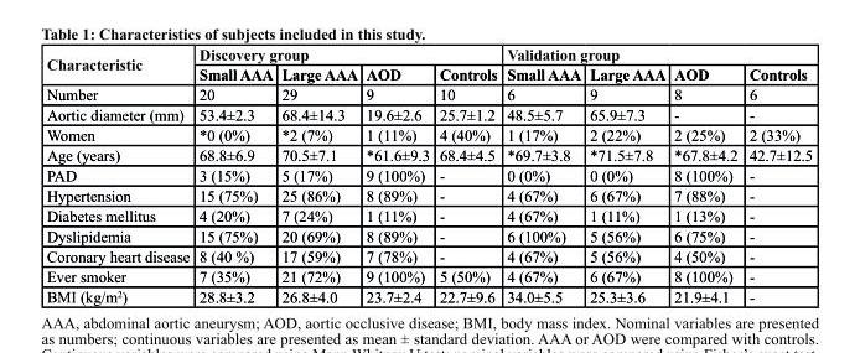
<table><thead><tr><td rowspan="2">characteristic</td><td colspan="4">discovery group</td><td colspan="4">Validation group</td></tr><tr><td>small AAA</td><td>large AAA</td><td>Aod</td><td>controls</td><td>small AAA</td><td>large AAA</td><td>Aod</td><td>controls</td></tr></thead><tbody><tr><td>Number</td><td>20</td><td>29</td><td>9</td><td>10</td><td>6</td><td>9</td><td>8</td><td>6</td></tr><tr><td>Aortic diameter (mm)</td><td>53.4±2.3</td><td>68.4±14.3</td><td>19.6±2.6</td><td>25.7±1.2</td><td>48.5±5.7</td><td>65.9±7.3</td><td>-</td><td>-</td></tr><tr><td>Women</td><td>*0 (0%)</td><td>*2 (7%)</td><td>1 (11%)</td><td>4 (40%)</td><td>1 (17%)</td><td>2 (22%)</td><td>2 (25%)</td><td>2 (33%)</td></tr><tr><td>Age (years)</td><td>68.8±6.9</td><td>70.5±7.1</td><td>*61.6±9.3</td><td>68.4±4.5</td><td>*69.7±3.8</td><td>*71.5±7.8</td><td>*67.8±4.2</td><td>42.7±12.5</td></tr><tr><td>PAD</td><td>3 (15%)</td><td>5 (17%)</td><td>9 (100%)</td><td>-</td><td>0 (0%)</td><td>0 (0%)</td><td>8 (100%)</td><td>-</td></tr><tr><td>Hypertension</td><td>15 (75%)</td><td>25 (86%)</td><td>8 (89%)</td><td>-</td><td>4 (67%)</td><td>6 (67%)</td><td>7 (88%)</td><td>-</td></tr><tr><td>Diabetes mellitus</td><td>4 (20%)</td><td>7 (24%)</td><td>1 (11%)</td><td>-</td><td>4 (67%)</td><td>1 (11%)</td><td>1 (13%)</td><td>-</td></tr><tr><td>Dyslipidemia</td><td>15 (75%)</td><td>20 (69%)</td><td>8 (89%)</td><td>-</td><td>6 (100%)</td><td>5 (56%)</td><td>6 (75%)</td><td>-</td></tr><tr><td>Coronary heart disease</td><td>8 (40 %)</td><td>17 (59%)</td><td>7 (78%)</td><td>-</td><td>4 (67%)</td><td>5 (56%)</td><td>4 (50%)</td><td>-</td></tr><tr><td>Ever smoker</td><td>7 (35%)</td><td>21 (72%)</td><td>9 (100%)</td><td>5 (50%)</td><td>4 (67%)</td><td>6 (67%)</td><td>8 (100%)</td><td>-</td></tr><tr><td>BMI (kg/m<sup>2</sup>)</td><td>28.8±3.2</td><td>26.8±4.0</td><td>23.7±2.4</td><td>22.7±9.6</td><td>34.0±5.5</td><td>25.3±3.6</td><td>21.9±4.1</td><td>-</td></tr></tbody></table>